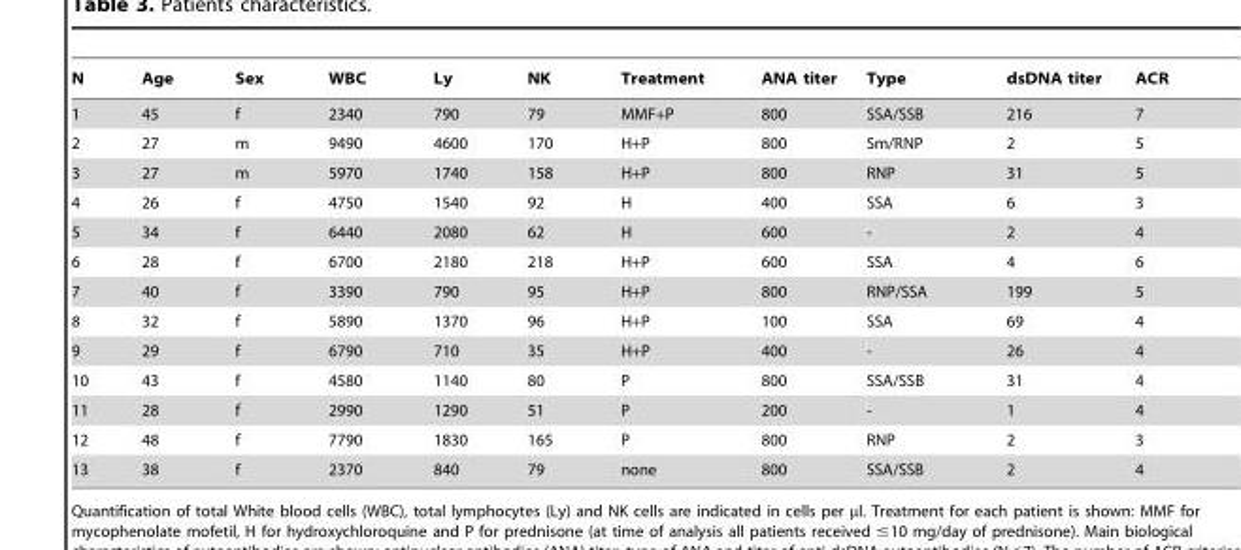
<table><thead><tr><td>N</td><td>Age</td><td>Sex</td><td>WBC</td><td>Ly</td><td>NK</td><td>Treatment</td><td>ANA titer</td><td>Type</td><td>dsDNA titer</td><td>ACR</td></tr></thead><tbody><tr><td>1</td><td>45</td><td>f</td><td>2340</td><td>790</td><td>79</td><td>MMF+P</td><td>800</td><td>SSA/SSB</td><td>216</td><td>7</td></tr><tr><td>2</td><td>27</td><td>m</td><td>9490</td><td>4600</td><td>170</td><td>H+P</td><td>800</td><td>Sm/RNP</td><td>2</td><td>5</td></tr><tr><td>3</td><td>27</td><td>m</td><td>5970</td><td>1740</td><td>158</td><td>H+P</td><td>800</td><td>RNP</td><td>31</td><td>5</td></tr><tr><td>4</td><td>26</td><td>f</td><td>4750</td><td>1540</td><td>92</td><td>H</td><td>400</td><td>SSA</td><td>6</td><td>3</td></tr><tr><td>5</td><td>34</td><td>f</td><td>6440</td><td>2080</td><td>62</td><td>H</td><td>600</td><td>-</td><td>2</td><td>4</td></tr><tr><td>6</td><td>28</td><td>f</td><td>6700</td><td>2180</td><td>218</td><td>H+P</td><td>600</td><td>SSA</td><td>4</td><td>6</td></tr><tr><td>7</td><td>40</td><td>f</td><td>3390</td><td>790</td><td>95</td><td>H+P</td><td>800</td><td>RNP/SSA</td><td>199</td><td>5</td></tr><tr><td>8</td><td>32</td><td>f</td><td>5890</td><td>1370</td><td>96</td><td>H+P</td><td>100</td><td>SSA</td><td>69</td><td>4</td></tr><tr><td>9</td><td>29</td><td>f</td><td>6790</td><td>710</td><td>35</td><td>H+P</td><td>400</td><td>-</td><td>26</td><td>4</td></tr><tr><td>10</td><td>43</td><td>f</td><td>4580</td><td>1140</td><td>80</td><td>P</td><td>800</td><td>SSA/SSB</td><td>31</td><td>4</td></tr><tr><td>11</td><td>28</td><td>f</td><td>2990</td><td>1290</td><td>51</td><td>P</td><td>200</td><td>-</td><td>1</td><td>4</td></tr><tr><td>12</td><td>48</td><td>f</td><td>7790</td><td>1830</td><td>165</td><td>P</td><td>800</td><td>RNP</td><td>2</td><td>3</td></tr><tr><td>13</td><td>38</td><td>f</td><td>2370</td><td>840</td><td>79</td><td>none</td><td>800</td><td>SSA/SSB</td><td>2</td><td>4</td></tr></tbody></table>